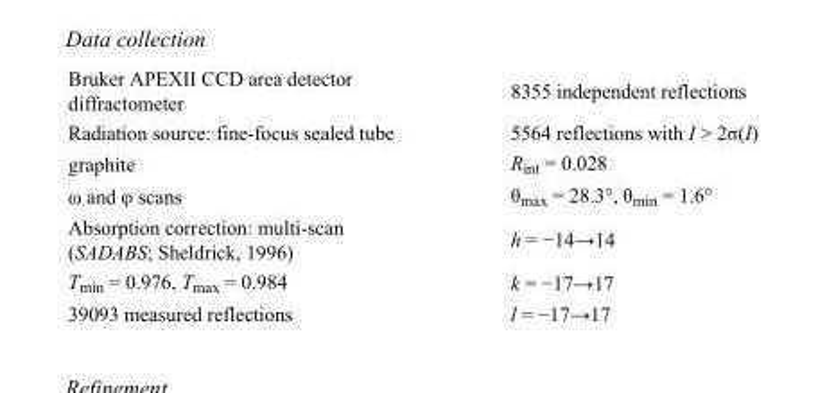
<table><tbody><tr><td>Bruker APEXII CCD area detector diffractometer</td><td>8355 independent reflections</td></tr><tr><td>Radiation source: fine-focus sealed tube</td><td>5564 reflections with I &gt; 2σ(I)</td></tr><tr><td>graphite</td><td>R<sub>int</sub> = 0.028</td></tr><tr><td>ω and φ scans</td><td>θ<sub>max</sub> = 28.3°, θ<sub>min</sub> = 1.6°</td></tr><tr><td>Absorption correction: multi-scan (SADABS; Sheldrick, 1996)</td><td>h = −14→14</td></tr><tr><td>T<sub>min</sub> = 0.976, T<sub>max</sub> = 0.984</td><td>k = −17→17</td></tr><tr><td>39093 measured reflections</td><td>l = −17→17</td></tr></tbody></table>